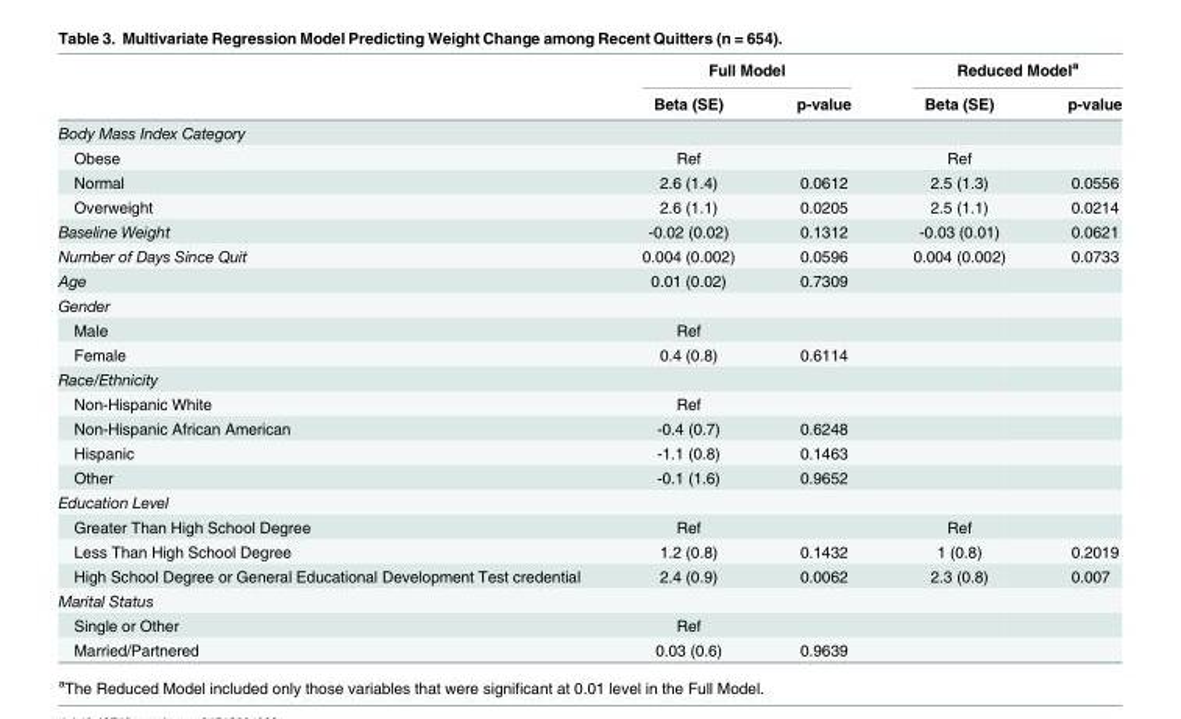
<table><thead><tr><td rowspan="2"></td><td colspan="2">Full Model</td><td colspan="2">Reduced Model<sup>a</sup></td></tr><tr><td>Beta (SE)</td><td>p-value</td><td>Beta (SE)</td><td>p-value</td></tr></thead><tbody><tr><td colspan="5">Body Mass Index Category</td></tr><tr><td>Obese</td><td>Ref</td><td></td><td>Ref</td><td></td></tr><tr><td>Normal</td><td>2.6 (1.4)</td><td>0.0612</td><td>2.5 (1.3)</td><td>0.0556</td></tr><tr><td>Overweight</td><td>2.6 (1.1)</td><td>0.0205</td><td>2.5 (1.1)</td><td>0.0214</td></tr><tr><td>Baseline Weight</td><td>-0.02 (0.02)</td><td>0.1312</td><td>-0.03 (0.01)</td><td>0.0621</td></tr><tr><td>Number of Days Since Quit</td><td>0.004 (0.002)</td><td>0.0596</td><td>0.004 (0.002)</td><td>0.0733</td></tr><tr><td>Age</td><td>0.01 (0.02)</td><td>0.7309</td><td></td><td></td></tr><tr><td colspan="5">Gender</td></tr><tr><td>Male</td><td>Ref</td><td></td><td></td><td></td></tr><tr><td>Female</td><td>0.4 (0.8)</td><td>0.6114</td><td></td><td></td></tr><tr><td colspan="5">Race/Ethnicity</td></tr><tr><td>Non-Hispanic White</td><td>Ref</td><td></td><td></td><td></td></tr><tr><td>Non-Hispanic African American</td><td>-0.4 (0.7)</td><td>0.6248</td><td></td><td></td></tr><tr><td>Hispanic</td><td>-1.1 (0.8)</td><td>0.1463</td><td></td><td></td></tr><tr><td>Other</td><td>-0.1 (1.6)</td><td>0.9652</td><td></td><td></td></tr><tr><td colspan="5">Education Level</td></tr><tr><td>Greater Than High School Degree</td><td>Ref</td><td></td><td>Ref</td><td></td></tr><tr><td>Less Than High School Degree</td><td>1.2 (0.8)</td><td>0.1432</td><td>1 (0.8)</td><td>0.2019</td></tr><tr><td>High School Degree or General Educational Development Test credential</td><td>2.4 (0.9)</td><td>0.0062</td><td>2.3 (0.8)</td><td>0.007</td></tr><tr><td colspan="5">Marital Status</td></tr><tr><td>Single or Other</td><td>Ref</td><td></td><td></td><td></td></tr><tr><td>Married/Partnered</td><td>0.03 (0.6)</td><td>0.9639</td><td></td><td></td></tr></tbody></table>